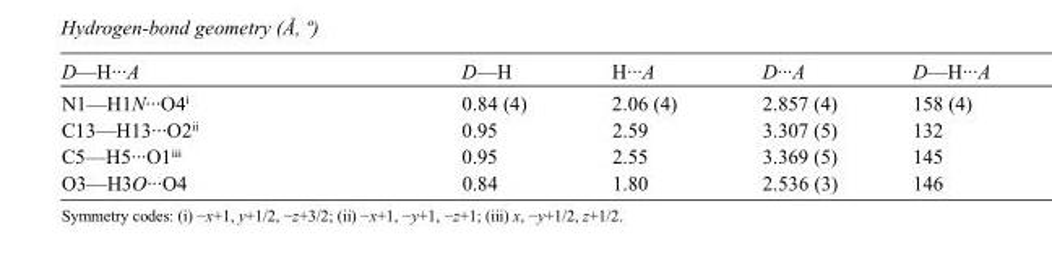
<table><tbody><tr><td>D—H···A</td><td>D—H</td><td>H···A</td><td>D···A</td><td>D—H···A</td></tr><tr><td>N1—H1N···O4<sup>i</sup></td><td>0.84 (4)</td><td>2.06 (4)</td><td>2.857 (4)</td><td>158 (4)</td></tr><tr><td>C13—H13···O2<sup>ii</sup></td><td>0.95</td><td>2.59</td><td>3.307 (5)</td><td>132</td></tr><tr><td>C5—H5···O1<sup>iii</sup></td><td>0.95</td><td>2.55</td><td>3.369 (5)</td><td>145</td></tr><tr><td>O3—H3O···O4</td><td>0.84</td><td>1.80</td><td>2.536 (3)</td><td>146</td></tr></tbody></table>